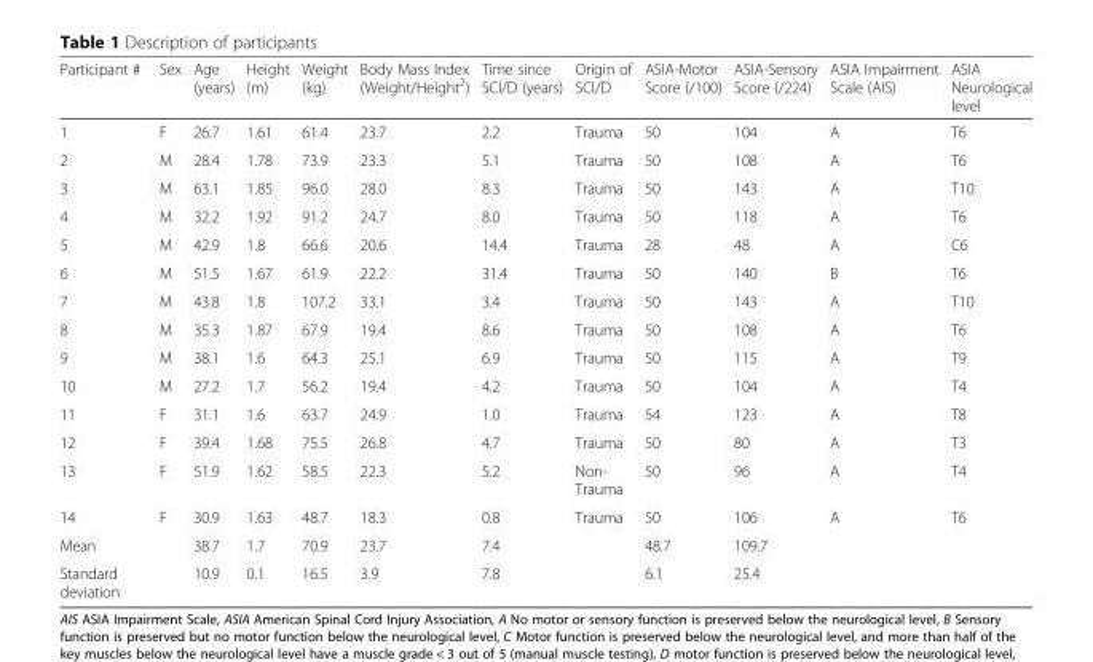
<table><thead><tr><td>Participant #</td><td>Sex</td><td>Age (years)</td><td>Height (m)</td><td>Weight (kg)</td><td>Body Mass Index (Weight/Height<sup>2</sup>)</td><td>Time since SCI/D (years)</td><td>Origin of SCI/D</td><td>ASIA-Motor Score (/100)</td><td>ASIA-Sensory Score (/224)</td><td>ASIA Impairment Scale (AIS)</td><td>ASIA Neurological level</td></tr></thead><tbody><tr><td>1</td><td>F</td><td>26.7</td><td>1.61</td><td>61.4</td><td>23.7</td><td>2.2</td><td>Trauma</td><td>50</td><td>104</td><td>A</td><td>T6</td></tr><tr><td>2</td><td>M</td><td>28.4</td><td>1.78</td><td>73.9</td><td>23.3</td><td>5.1</td><td>Trauma</td><td>50</td><td>108</td><td>A</td><td>T6</td></tr><tr><td>3</td><td>M</td><td>63.1</td><td>1.85</td><td>96.0</td><td>28.0</td><td>8.3</td><td>Trauma</td><td>50</td><td>143</td><td>A</td><td>T10</td></tr><tr><td>4</td><td>M</td><td>32.2</td><td>1.92</td><td>91.2</td><td>24.7</td><td>8.0</td><td>Trauma</td><td>50</td><td>118</td><td>A</td><td>T6</td></tr><tr><td>5</td><td>M</td><td>42.9</td><td>1.8</td><td>66.6</td><td>20.6</td><td>14.4</td><td>Trauma</td><td>28</td><td>48</td><td>A</td><td>C6</td></tr><tr><td>6</td><td>M</td><td>51.5</td><td>1.67</td><td>61.9</td><td>22.2</td><td>31.4</td><td>Trauma</td><td>50</td><td>140</td><td>B</td><td>T6</td></tr><tr><td>7</td><td>M</td><td>43.8</td><td>1.8</td><td>107.2</td><td>33.1</td><td>3.4</td><td>Trauma</td><td>50</td><td>143</td><td>A</td><td>T10</td></tr><tr><td>8</td><td>M</td><td>35.3</td><td>1.87</td><td>67.9</td><td>19.4</td><td>8.6</td><td>Trauma</td><td>50</td><td>108</td><td>A</td><td>T6</td></tr><tr><td>9</td><td>M</td><td>38.1</td><td>1.6</td><td>64.3</td><td>25.1</td><td>6.9</td><td>Trauma</td><td>50</td><td>115</td><td>A</td><td>T9</td></tr><tr><td>10</td><td>M</td><td>27.2</td><td>1.7</td><td>56.2</td><td>19.4</td><td>4.2</td><td>Trauma</td><td>50</td><td>104</td><td>A</td><td>T4</td></tr><tr><td>11</td><td>F</td><td>31.1</td><td>1.6</td><td>63.7</td><td>24.9</td><td>1.0</td><td>Trauma</td><td>54</td><td>123</td><td>A</td><td>T8</td></tr><tr><td>12</td><td>F</td><td>39.4</td><td>1.68</td><td>75.5</td><td>26.8</td><td>4.7</td><td>Trauma</td><td>50</td><td>80</td><td>A</td><td>T3</td></tr><tr><td>13</td><td>F</td><td>51.9</td><td>1.62</td><td>58.5</td><td>22.3</td><td>5.2</td><td>Non- Trauma</td><td>50</td><td>96</td><td>A</td><td>T4</td></tr><tr><td>14</td><td>F</td><td>30.9</td><td>1.63</td><td>48.7</td><td>18.3</td><td>0.8</td><td>Trauma</td><td>50</td><td>106</td><td>A</td><td>T6</td></tr><tr><td>Mean</td><td></td><td>38.7</td><td>1.7</td><td>70.9</td><td>23.7</td><td>7.4</td><td></td><td>48.7</td><td>109.7</td><td></td><td></td></tr><tr><td>Standard deviation</td><td></td><td>10.9</td><td>0.1</td><td>16.5</td><td>3.9</td><td>7.8</td><td></td><td>6.1</td><td>25.4</td><td></td><td></td></tr></tbody></table>